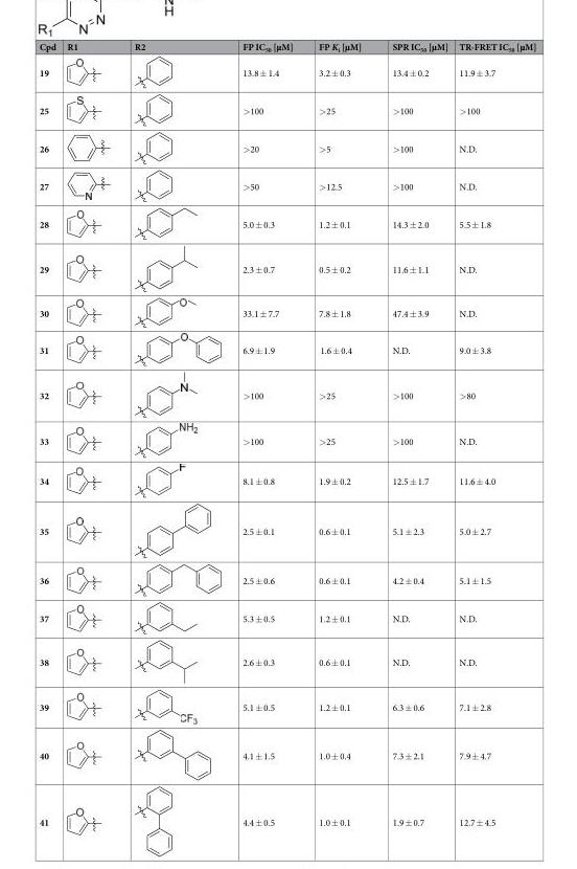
<table><thead><tr><td>Cpd</td><td>R1</td><td>R2</td><td>FP IC<sub>50</sub> [µM]</td><td>FP K<sub>i</sub> [µM]</td><td>SPR IC<sub>50</sub> [µM]</td><td>TR-FRET IC<sub>50</sub> [µM]</td></tr></thead><tbody><tr><td>19</td><td></td><td></td><td>13.8 ± 1.4</td><td>3.2 ± 0.3</td><td>13.4 ± 0.2</td><td>11.9 ± 3.7</td></tr><tr><td>25</td><td></td><td></td><td>&gt;100</td><td>&gt;25</td><td>&gt;100</td><td>&gt;100</td></tr><tr><td>26</td><td></td><td></td><td>&gt;20</td><td>&gt;5</td><td>&gt;100</td><td>N.D.</td></tr><tr><td>27</td><td></td><td></td><td>&gt;50</td><td>&gt;12.5</td><td>&gt;100</td><td>N.D.</td></tr><tr><td>28</td><td></td><td></td><td>5.0 ± 0.3</td><td>1.2 ± 0.1</td><td>14.3 ± 2.0</td><td>5.5 ± 1.8</td></tr><tr><td>29</td><td></td><td></td><td>2.3 ± 0.7</td><td>0.5 ± 0.2</td><td>11.6 ± 1.1</td><td>N.D.</td></tr><tr><td>30</td><td></td><td></td><td>33.1 ± 7.7</td><td>7.8 ± 1.8</td><td>47.4 ± 3.9</td><td>N.D.</td></tr><tr><td>31</td><td></td><td></td><td>6.9 ± 1.9</td><td>1.6 ± 0.4</td><td>N.D.</td><td>9.0 ± 3.8</td></tr><tr><td>32</td><td></td><td></td><td>&gt;100</td><td>&gt;25</td><td>&gt;100</td><td>&gt;80</td></tr><tr><td>33</td><td></td><td></td><td>&gt;100</td><td>&gt;25</td><td>&gt;100</td><td>N.D.</td></tr><tr><td>34</td><td></td><td></td><td>8.1 ± 0.8</td><td>1.9 ± 0.2</td><td>12.5 ± 1.7</td><td>11.6 ± 4.0</td></tr><tr><td>35</td><td></td><td></td><td>2.5 ± 0.1</td><td>0.6 ± 0.1</td><td>5.1 ± 2.3</td><td>5.0 ± 2.7</td></tr><tr><td>36</td><td></td><td></td><td>2.5 ± 0.6</td><td>0.6 ± 0.1</td><td>4.2 ± 0.4</td><td>5.1 ± 1.5</td></tr><tr><td>37</td><td></td><td></td><td>5.3 ± 0.5</td><td>1.2 ± 0.1</td><td>N.D.</td><td>N.D.</td></tr><tr><td>38</td><td></td><td></td><td>2.6 ± 0.3</td><td>0.6 ± 0.1</td><td>N.D.</td><td>N.D.</td></tr><tr><td>39</td><td></td><td></td><td>5.1 ± 0.5</td><td>1.2 ± 0.1</td><td>6.3 ± 0.6</td><td>7.1 ± 2.8</td></tr><tr><td>40</td><td></td><td></td><td>4.1 ± 1.5</td><td>1.0 ± 0.4</td><td>7.3 ± 2.1</td><td>7.9 ± 4.7</td></tr><tr><td>41</td><td></td><td></td><td>4.4 ± 0.5</td><td>1.0 ± 0.1</td><td>1.9 ± 0.7</td><td>12.7 ± 4.5</td></tr></tbody></table>